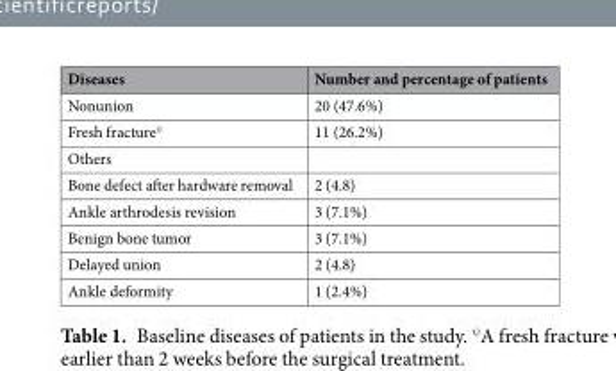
<table><thead><tr><td>Diseases</td><td>Number and percentage of patients</td></tr></thead><tbody><tr><td>Nonunion</td><td>20 (47.6%)</td></tr><tr><td>Fresh fracture<sup>ψ</sup></td><td>11 (26.2%)</td></tr><tr><td colspan="2">Others</td></tr><tr><td>Bone defect after hardware removal</td><td>2 (4.8)</td></tr><tr><td>Ankle arthrodesis revision</td><td>3 (7.1%)</td></tr><tr><td>Benign bone tumor</td><td>3 (7.1%)</td></tr><tr><td>Delayed union</td><td>2 (4.8)</td></tr><tr><td>Ankle deformity</td><td>1 (2.4%)</td></tr></tbody></table>